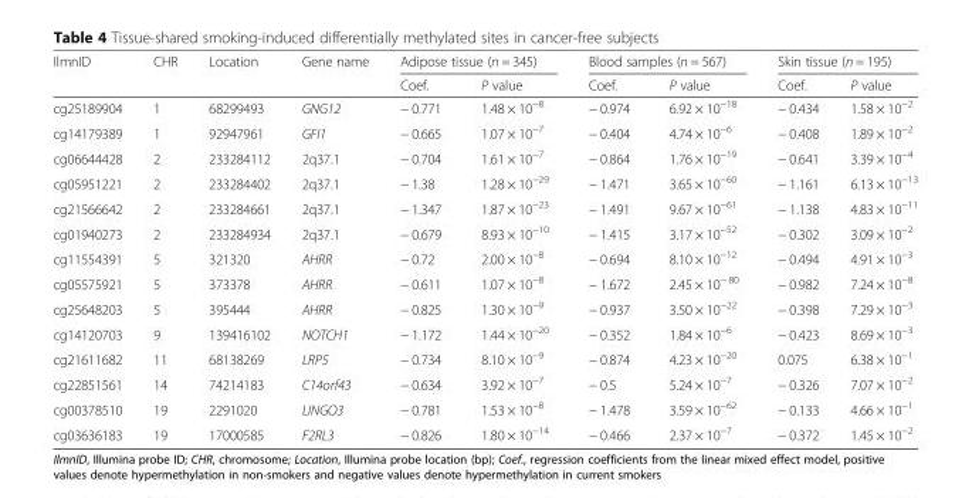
<table><thead><tr><td rowspan="2">IlmnID</td><td rowspan="2">CHR</td><td rowspan="2">Location</td><td rowspan="2">Gene name</td><td colspan="2">Adipose tissue (n = 345)</td><td colspan="2">Blood samples (n = 567)</td><td colspan="2">Skin tissue (n = 195)</td></tr><tr><td>Coef.</td><td>P value</td><td>Coef.</td><td>P value</td><td>Coef.</td><td>P value</td></tr></thead><tbody><tr><td>cg25189904</td><td>1</td><td>68299493</td><td>GNG12</td><td>− 0.771</td><td>1.48 × 10<sup>−8</sup></td><td>− 0.974</td><td>6.92 × 10<sup>−18</sup></td><td>− 0.434</td><td>1.58 × 10<sup>−2</sup></td></tr><tr><td>cg14179389</td><td>1</td><td>92947961</td><td>GFI1</td><td>− 0.665</td><td>1.07 × 10<sup>−7</sup></td><td>− 0.404</td><td>4.74 × 10<sup>−6</sup></td><td>− 0.408</td><td>1.89 × 10<sup>−2</sup></td></tr><tr><td>cg06644428</td><td>2</td><td>233284112</td><td>2q37.1</td><td>− 0.704</td><td>1.61 × 10<sup>−7</sup></td><td>− 0.864</td><td>1.76 × 10<sup>−19</sup></td><td>− 0.641</td><td>3.39 × 10<sup>−4</sup></td></tr><tr><td>cg05951221</td><td>2</td><td>233284402</td><td>2q37.1</td><td>− 1.38</td><td>1.28 × 10<sup>−29</sup></td><td>− 1.471</td><td>3.65 × 10<sup>−60</sup></td><td>− 1.161</td><td>6.13 × 10<sup>−13</sup></td></tr><tr><td>cg21566642</td><td>2</td><td>233284661</td><td>2q37.1</td><td>− 1.347</td><td>1.87 × 10<sup>−23</sup></td><td>− 1.491</td><td>9.67 × 10<sup>−61</sup></td><td>− 1.138</td><td>4.83 × 10<sup>−11</sup></td></tr><tr><td>cg01940273</td><td>2</td><td>233284934</td><td>2q37.1</td><td>− 0.679</td><td>8.93 × 10<sup>−10</sup></td><td>− 1.415</td><td>3.17 × 10<sup>−52</sup></td><td>− 0.302</td><td>3.09 × 10<sup>−2</sup></td></tr><tr><td>cg11554391</td><td>5</td><td>321320</td><td>AHRR</td><td>− 0.72</td><td>2.00 × 10<sup>−8</sup></td><td>− 0.694</td><td>8.10 × 10<sup>−12</sup></td><td>− 0.494</td><td>4.91 × 10<sup>−3</sup></td></tr><tr><td>cg05575921</td><td>5</td><td>373378</td><td>AHRR</td><td>− 0.611</td><td>1.07 × 10<sup>−8</sup></td><td>− 1.672</td><td>2.45 × 10<sup>− 80</sup></td><td>− 0.982</td><td>7.24 × 10<sup>−8</sup></td></tr><tr><td>cg25648203</td><td>5</td><td>395444</td><td>AHRR</td><td>− 0.825</td><td>1.30 × 10<sup>−9</sup></td><td>− 0.937</td><td>3.50 × 10<sup>−22</sup></td><td>− 0.398</td><td>7.29 × 10<sup>−3</sup></td></tr><tr><td>cg14120703</td><td>9</td><td>139416102</td><td>NOTCH1</td><td>− 1.172</td><td>1.44 × 10<sup>−20</sup></td><td>− 0.352</td><td>1.84 × 10<sup>−6</sup></td><td>− 0.423</td><td>8.69 × 10<sup>−3</sup></td></tr><tr><td>cg21611682</td><td>11</td><td>68138269</td><td>LRP5</td><td>− 0.734</td><td>8.10 × 10<sup>−9</sup></td><td>− 0.874</td><td>4.23 × 10<sup>−20</sup></td><td>0.075</td><td>6.38 × 10<sup>−1</sup></td></tr><tr><td>cg22851561</td><td>14</td><td>74214183</td><td>C14orf43</td><td>− 0.634</td><td>3.92 × 10<sup>−7</sup></td><td>− 0.5</td><td>5.24 × 10<sup>−7</sup></td><td>− 0.326</td><td>7.07 × 10<sup>−2</sup></td></tr><tr><td>cg00378510</td><td>19</td><td>2291020</td><td>LINGO3</td><td>− 0.781</td><td>1.53 × 10<sup>−8</sup></td><td>− 1.478</td><td>3.59 × 10<sup>−62</sup></td><td>− 0.133</td><td>4.66 × 10<sup>−1</sup></td></tr><tr><td>cg03636183</td><td>19</td><td>17000585</td><td>F2RL3</td><td>− 0.826</td><td>1.80 × 10<sup>−14</sup></td><td>− 0.466</td><td>2.37 × 10<sup>−7</sup></td><td>− 0.372</td><td>1.45 × 10<sup>−2</sup></td></tr></tbody></table>